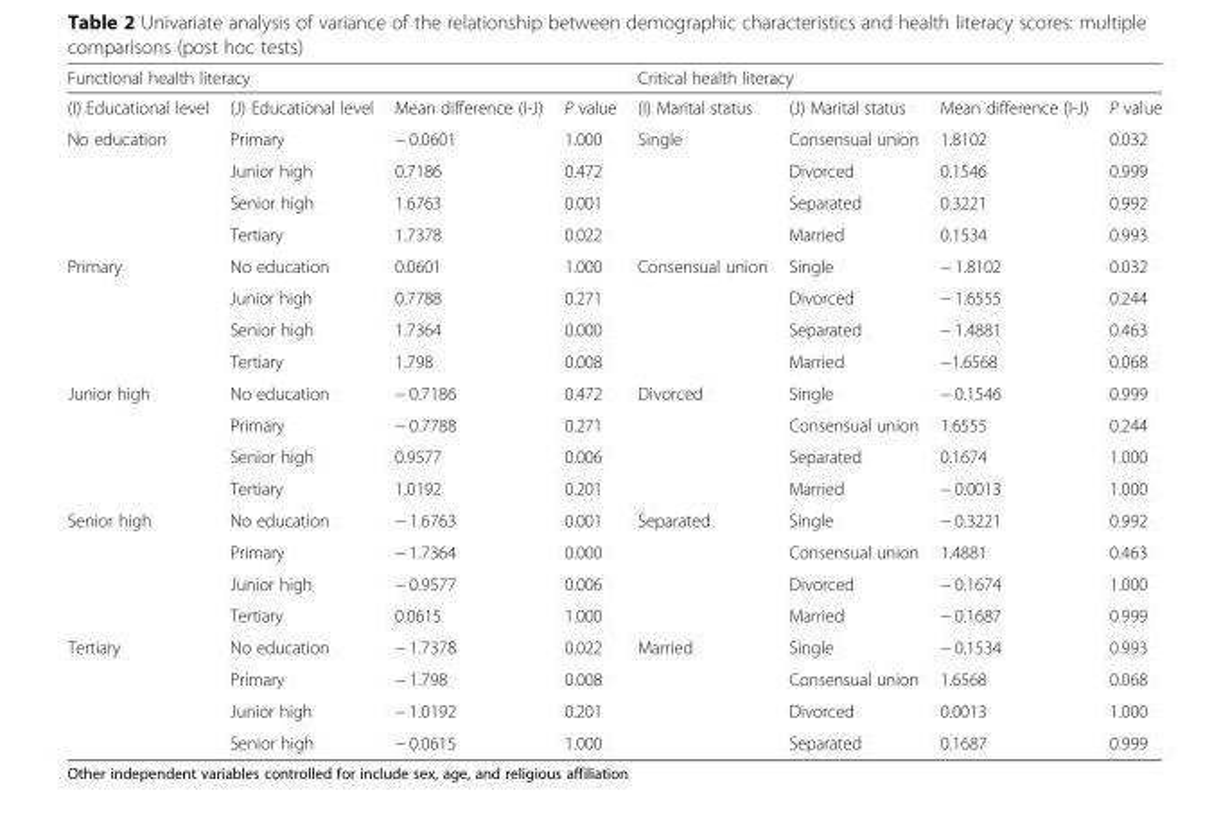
<table><thead><tr><td colspan="4">Functional health literacy</td><td colspan="4">Critical health literacy</td></tr><tr><td>(I) Educational level</td><td>(J) Educational level</td><td>Mean difference (I-J)</td><td>P value</td><td>(I) Marital status</td><td>(J) Marital status</td><td>Mean difference (I-J)</td><td>P value</td></tr></thead><tbody><tr><td rowspan="4">No education</td><td>Primary</td><td>− 0.0601</td><td>1.000</td><td>Single</td><td>Consensual union</td><td>1.8102</td><td>0.032</td></tr><tr><td>Junior high</td><td>0.7186</td><td>0.472</td><td></td><td>Divorced</td><td>0.1546</td><td>0.999</td></tr><tr><td>Senior high</td><td>1.6763</td><td>0.001</td><td></td><td>Separated</td><td>0.3221</td><td>0.992</td></tr><tr><td>Tertiary</td><td>1.7378</td><td>0.022</td><td></td><td>Married</td><td>0.1534</td><td>0.993</td></tr><tr><td rowspan="4">Primary</td><td>No education</td><td>0.0601</td><td>1.000</td><td>Consensual union</td><td>Single</td><td>− 1.8102</td><td>0.032</td></tr><tr><td>Junior high</td><td>0.7788</td><td>0.271</td><td></td><td>Divorced</td><td>− 1.6555</td><td>0.244</td></tr><tr><td>Senior high</td><td>1.7364</td><td>0.000</td><td></td><td>Separated</td><td>− 1.4881</td><td>0.463</td></tr><tr><td>Tertiary</td><td>1.798</td><td>0.008</td><td></td><td>Married</td><td>−1.6568</td><td>0.068</td></tr><tr><td rowspan="4">Junior high</td><td>No education</td><td>− 0.7186</td><td>0.472</td><td>Divorced</td><td>Single</td><td>− 0.1546</td><td>0.999</td></tr><tr><td>Primary</td><td>− 0.7788</td><td>0.271</td><td></td><td>Consensual union</td><td>1.6555</td><td>0.244</td></tr><tr><td>Senior high</td><td>0.9577</td><td>0.006</td><td></td><td>Separated</td><td>0.1674</td><td>1.000</td></tr><tr><td>Tertiary</td><td>1.0192</td><td>0.201</td><td></td><td>Married</td><td>− 0.0013</td><td>1.000</td></tr><tr><td rowspan="4">Senior high</td><td>No education</td><td>− 1.6763</td><td>0.001</td><td>Separated</td><td>Single</td><td>− 0.3221</td><td>0.992</td></tr><tr><td>Primary</td><td>− 1.7364</td><td>0.000</td><td></td><td>Consensual union</td><td>1.4881</td><td>0.463</td></tr><tr><td>Junior high</td><td>− 0.9577</td><td>0.006</td><td></td><td>Divorced</td><td>− 0.1674</td><td>1.000</td></tr><tr><td>Tertiary</td><td>0.0615</td><td>1.000</td><td></td><td>Married</td><td>− 0.1687</td><td>0.999</td></tr><tr><td rowspan="4">Tertiary</td><td>No education</td><td>− 1.7378</td><td>0.022</td><td>Married</td><td>Single</td><td>− 0.1534</td><td>0.993</td></tr><tr><td>Primary</td><td>− 1.798</td><td>0.008</td><td></td><td>Consensual union</td><td>1.6568</td><td>0.068</td></tr><tr><td>Junior high</td><td>− 1.0192</td><td>0.201</td><td></td><td>Divorced</td><td>0.0013</td><td>1.000</td></tr><tr><td>Senior high</td><td>− 0.0615</td><td>1.000</td><td></td><td>Separated</td><td>0.1687</td><td>0.999</td></tr></tbody></table>